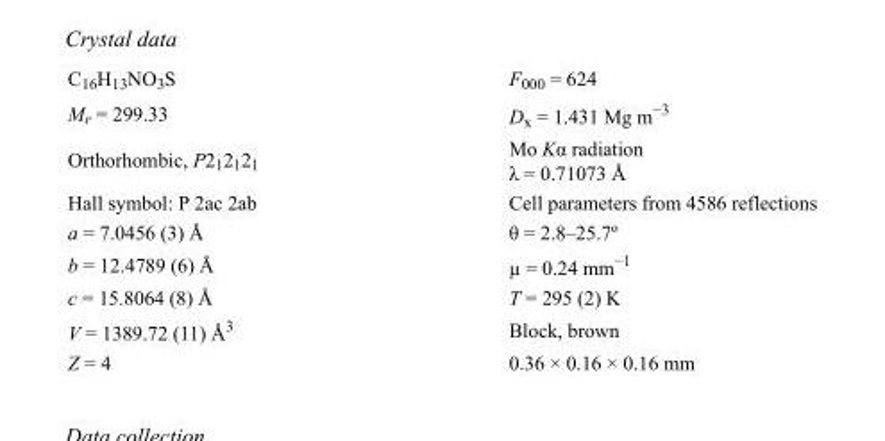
<table><tbody><tr><td>C<sub>16</sub>H<sub>13</sub>NO<sub>3</sub>S</td><td>F<sub>000</sub> = 624</td></tr><tr><td>M<sub>r</sub> = 299.33</td><td>D<sub>x</sub> = 1.431 Mg m<sup>−3</sup></td></tr><tr><td>Orthorhombic, P2<sub>1</sub>2<sub>1</sub>2<sub>1</sub></td><td>Mo Kα radiation λ = 0.71073 Å</td></tr><tr><td>Hall symbol: P 2ac 2ab</td><td>Cell parameters from 4586 reflections</td></tr><tr><td>a = 7.0456 (3) Å</td><td>θ = 2.8–25.7º</td></tr><tr><td>b = 12.4789 (6) Å</td><td>µ = 0.24 mm<sup>−1</sup></td></tr><tr><td>c = 15.8064 (8) Å</td><td>T = 295 (2) K</td></tr><tr><td>V = 1389.72 (11) Å<sup>3</sup></td><td>Block, brown</td></tr><tr><td>Z = 4</td><td>0.36 × 0.16 × 0.16 mm</td></tr></tbody></table>